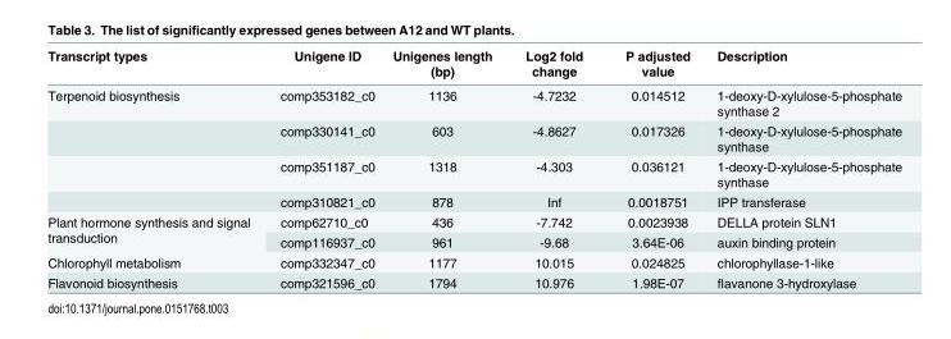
<table><thead><tr><td>Transcript types</td><td>Unigene ID</td><td>Unigenes length (bp)</td><td>Log2 fold change</td><td>P adjusted value</td><td>Description</td></tr></thead><tbody><tr><td rowspan="4">Terpenoid biosynthesis</td><td>comp353182_c0</td><td>1136</td><td>-4.7232</td><td>0.014512</td><td>1-deoxy-D-xylulose-5-phosphate synthase 2</td></tr><tr><td>comp330141_c0</td><td>603</td><td>-4.8627</td><td>0.017326</td><td>1-deoxy-D-xylulose-5-phosphate synthase</td></tr><tr><td>comp351187_c0</td><td>1318</td><td>-4.303</td><td>0.036121</td><td>1-deoxy-D-xylulose-5-phosphate synthase</td></tr><tr><td>comp310821_c0</td><td>878</td><td>Inf</td><td>0.0018751</td><td>IPP transferase</td></tr><tr><td rowspan="2">Plant hormone synthesis and signal transduction</td><td>comp62710_c0</td><td>436</td><td>-7.742</td><td>0.0023938</td><td>DELLA protein SLN1</td></tr><tr><td>comp116937_c0</td><td>961</td><td>-9.68</td><td>3.64E-06</td><td>auxin binding protein</td></tr><tr><td>Chlorophyll metabolism</td><td>comp332347_c0</td><td>1177</td><td>10.015</td><td>0.024825</td><td>chlorophyllase-1-like</td></tr><tr><td>Flavonoid biosynthesis</td><td>comp321596_c0</td><td>1794</td><td>10.976</td><td>1.98E-07</td><td>flavanone 3-hydroxylase</td></tr></tbody></table>